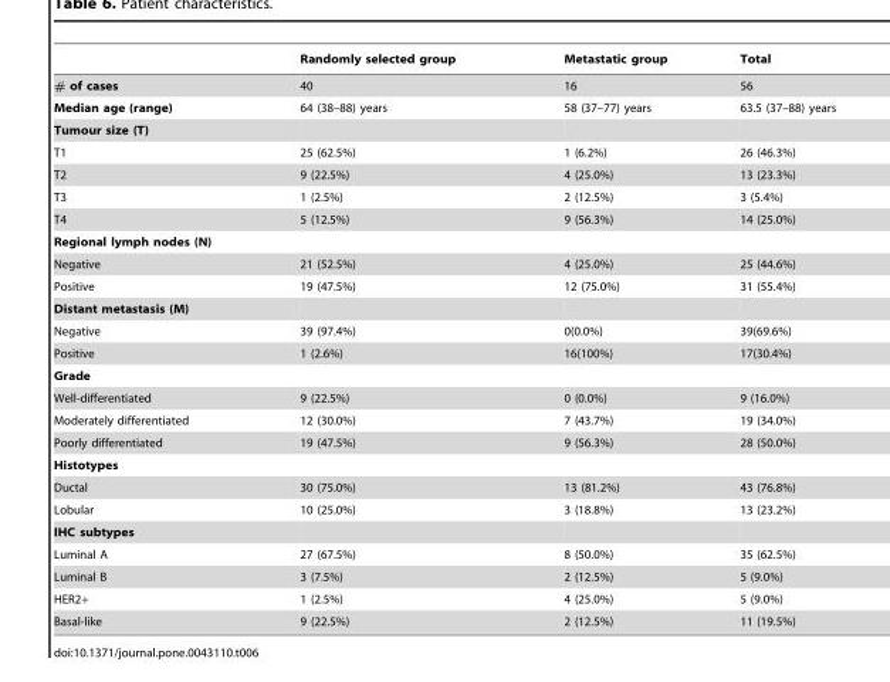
<table><thead><tr><td></td><td>Randomly selected group</td><td>Metastatic group</td><td>Total</td></tr></thead><tbody><tr><td># of cases</td><td>40</td><td>16</td><td>56</td></tr><tr><td>Median age (range)</td><td>64 (38–88) years</td><td>58 (37–77) years</td><td>63.5 (37–88) years</td></tr><tr><td colspan="4">Tumour size (T)</td></tr><tr><td>T1</td><td>25 (62.5%)</td><td>1 (6.2%)</td><td>26 (46.3%)</td></tr><tr><td>T2</td><td>9 (22.5%)</td><td>4 (25.0%)</td><td>13 (23.3%)</td></tr><tr><td>T3</td><td>1 (2.5%)</td><td>2 (12.5%)</td><td>3 (5.4%)</td></tr><tr><td>T4</td><td>5 (12.5%)</td><td>9 (56.3%)</td><td>14 (25.0%)</td></tr><tr><td colspan="4">Regional lymph nodes (N)</td></tr><tr><td>Negative</td><td>21 (52.5%)</td><td>4 (25.0%)</td><td>25 (44.6%)</td></tr><tr><td>Positive</td><td>19 (47.5%)</td><td>12 (75.0%)</td><td>31 (55.4%)</td></tr><tr><td colspan="4">Distant metastasis (M)</td></tr><tr><td>Negative</td><td>39 (97.4%)</td><td>0(0.0%)</td><td>39(69.6%)</td></tr><tr><td>Positive</td><td>1 (2.6%)</td><td>16(100%)</td><td>17(30.4%)</td></tr><tr><td colspan="4">Grade</td></tr><tr><td>Well-differentiated</td><td>9 (22.5%)</td><td>0 (0.0%)</td><td>9 (16.0%)</td></tr><tr><td>Moderately differentiated</td><td>12 (30.0%)</td><td>7 (43.7%)</td><td>19 (34.0%)</td></tr><tr><td>Poorly differentiated</td><td>19 (47.5%)</td><td>9 (56.3%)</td><td>28 (50.0%)</td></tr><tr><td colspan="4">Histotypes</td></tr><tr><td>Ductal</td><td>30 (75.0%)</td><td>13 (81.2%)</td><td>43 (76.8%)</td></tr><tr><td>Lobular</td><td>10 (25.0%)</td><td>3 (18.8%)</td><td>13 (23.2%)</td></tr><tr><td colspan="4">IHC subtypes</td></tr><tr><td>Luminal A</td><td>27 (67.5%)</td><td>8 (50.0%)</td><td>35 (62.5%)</td></tr><tr><td>Luminal B</td><td>3 (7.5%)</td><td>2 (12.5%)</td><td>5 (9.0%)</td></tr><tr><td>HER2+</td><td>1 (2.5%)</td><td>4 (25.0%)</td><td>5 (9.0%)</td></tr><tr><td>Basal-like</td><td>9 (22.5%)</td><td>2 (12.5%)</td><td>11 (19.5%)</td></tr></tbody></table>